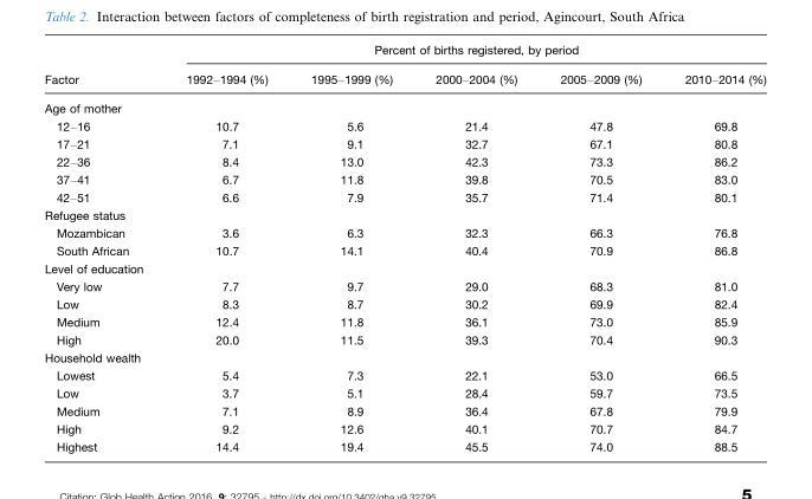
<table><thead><tr><td rowspan="2">Factor</td><td colspan="5">Percent of births registered, by period</td></tr><tr><td>1992–1994 (%)</td><td>1995–1999 (%)</td><td>2000–2004 (%)</td><td>2005–2009 (%)</td><td>2010–2014 (%)</td></tr></thead><tbody><tr><td colspan="6">Age of mother</td></tr><tr><td>12–16</td><td>10.7</td><td>5.6</td><td>21.4</td><td>47.8</td><td>69.8</td></tr><tr><td>17–21</td><td>7.1</td><td>9.1</td><td>32.7</td><td>67.1</td><td>80.8</td></tr><tr><td>22–36</td><td>8.4</td><td>13.0</td><td>42.3</td><td>73.3</td><td>86.2</td></tr><tr><td>37–41</td><td>6.7</td><td>11.8</td><td>39.8</td><td>70.5</td><td>83.0</td></tr><tr><td>42–51</td><td>6.6</td><td>7.9</td><td>35.7</td><td>71.4</td><td>80.1</td></tr><tr><td colspan="6">Refugee status</td></tr><tr><td>Mozambican</td><td>3.6</td><td>6.3</td><td>32.3</td><td>66.3</td><td>76.8</td></tr><tr><td>South African</td><td>10.7</td><td>14.1</td><td>40.4</td><td>70.9</td><td>86.8</td></tr><tr><td colspan="6">Level of education</td></tr><tr><td>Very low</td><td>7.7</td><td>9.7</td><td>29.0</td><td>68.3</td><td>81.0</td></tr><tr><td>Low</td><td>8.3</td><td>8.7</td><td>30.2</td><td>69.9</td><td>82.4</td></tr><tr><td>Medium</td><td>12.4</td><td>11.8</td><td>36.1</td><td>73.0</td><td>85.9</td></tr><tr><td>High</td><td>20.0</td><td>11.5</td><td>39.3</td><td>70.4</td><td>90.3</td></tr><tr><td colspan="6">Household wealth</td></tr><tr><td>Lowest</td><td>5.4</td><td>7.3</td><td>22.1</td><td>53.0</td><td>66.5</td></tr><tr><td>Low</td><td>3.7</td><td>5.1</td><td>28.4</td><td>59.7</td><td>73.5</td></tr><tr><td>Medium</td><td>7.1</td><td>8.9</td><td>36.4</td><td>67.8</td><td>79.9</td></tr><tr><td>High</td><td>9.2</td><td>12.6</td><td>40.1</td><td>70.7</td><td>84.7</td></tr><tr><td>Highest</td><td>14.4</td><td>19.4</td><td>45.5</td><td>74.0</td><td>88.5</td></tr></tbody></table>